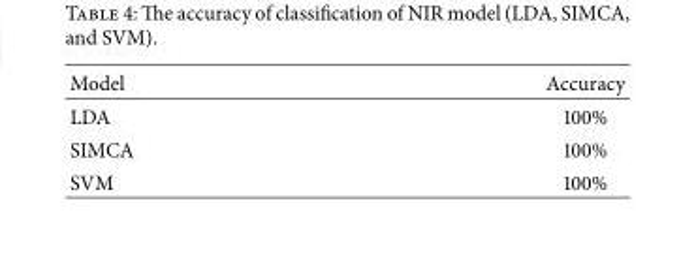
<table><thead><tr><td>Model</td><td>Accuracy</td></tr></thead><tbody><tr><td>LDA</td><td>100%</td></tr><tr><td>SIMCA</td><td>100%</td></tr><tr><td>SVM</td><td>100%</td></tr></tbody></table>